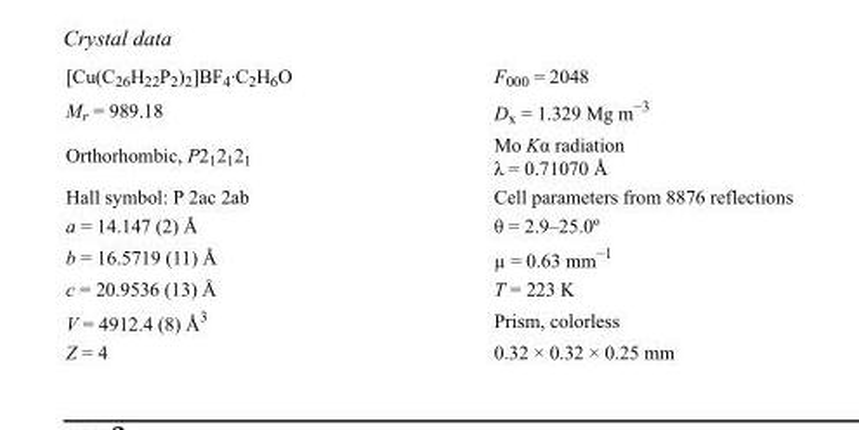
<table><tbody><tr><td>[Cu(C<sub>26</sub>H<sub>22</sub>P<sub>2</sub>)<sub>2</sub>]BF<sub>4</sub>·C<sub>2</sub>H<sub>6</sub>O</td><td>F000 = 2048</td></tr><tr><td>M<sub>r</sub> = 989.18</td><td>D<sub>x</sub> = 1.329 Mg m<sup>−3</sup></td></tr><tr><td>Orthorhombic, P2<sub>1</sub>2<sub>1</sub>2<sub>1</sub></td><td>Mo Kα radiation λ = 0.71070 Å</td></tr><tr><td>Hall symbol: P 2ac 2ab</td><td>Cell parameters from 8876 reflections</td></tr><tr><td>a = 14.147 (2) Å</td><td>θ = 2.9–25.0º</td></tr><tr><td>b = 16.5719 (11) Å</td><td>µ = 0.63 mm<sup>−1</sup></td></tr><tr><td>c = 20.9536 (13) Å</td><td>T = 223 K</td></tr><tr><td>V = 4912.4 (8) Å<sup>3</sup></td><td>Prism, colorless</td></tr><tr><td>Z = 4</td><td>0.32 × 0.32 × 0.25 mm</td></tr></tbody></table>